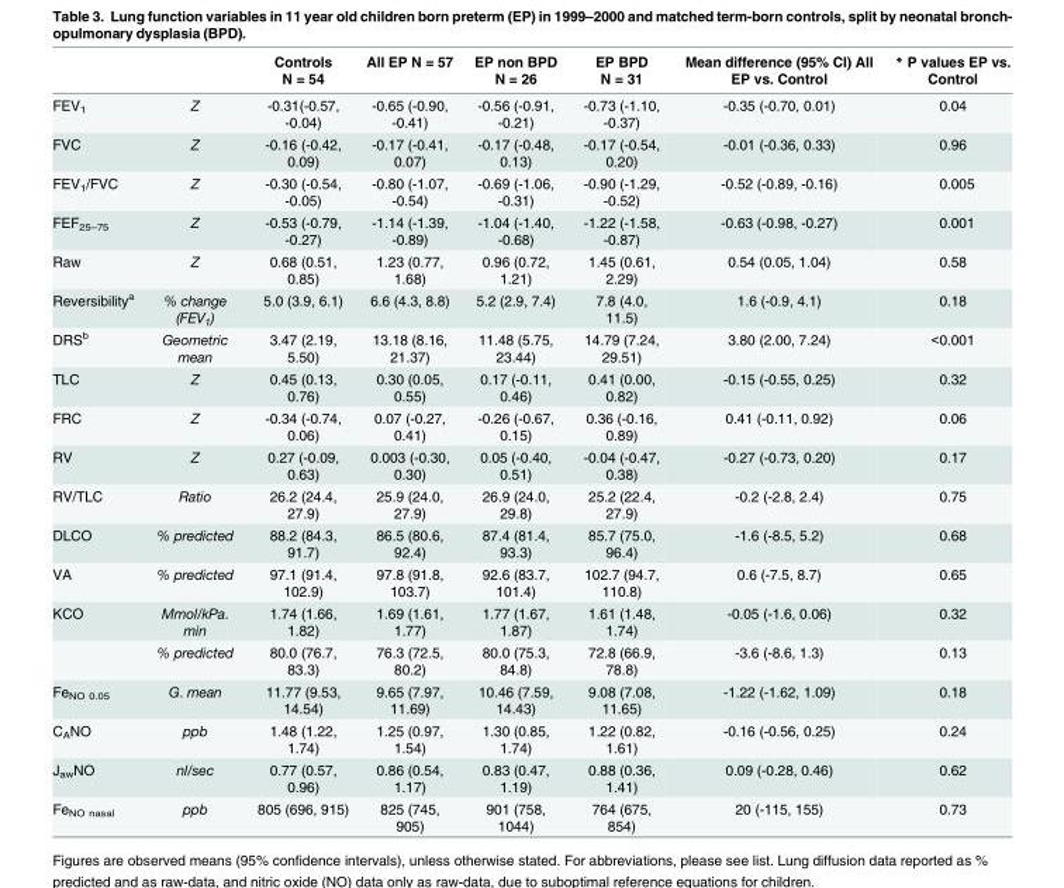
<table><thead><tr><td></td><td></td><td>Controls N = 54</td><td>All EP N = 57</td><td>EP non BPD N = 26</td><td>EP BPD N = 31</td><td>Mean difference (95% CI) All EP vs. Control</td><td>* P values EP vs. Control</td></tr></thead><tbody><tr><td>FEV<sub>1</sub></td><td>Z</td><td>-0.31(-0.57, -0.04)</td><td>-0.65 (-0.90, -0.41)</td><td>-0.56 (-0.91, -0.21)</td><td>-0.73 (-1.10, -0.37)</td><td>-0.35 (-0.70, 0.01)</td><td>0.04</td></tr><tr><td>FVC</td><td>Z</td><td>-0.16 (-0.42, 0.09)</td><td>-0.17 (-0.41, 0.07)</td><td>-0.17 (-0.48, 0.13)</td><td>-0.17 (-0.54, 0.20)</td><td>-0.01 (-0.36, 0.33)</td><td>0.96</td></tr><tr><td>FEV<sub>1</sub>/FVC</td><td>Z</td><td>-0.30 (-0.54, -0.05)</td><td>-0.80 (-1.07, -0.54)</td><td>-0.69 (-1.06, -0.31)</td><td>-0.90 (-1.29, -0.52)</td><td>-0.52 (-0.89, -0.16)</td><td>0.005</td></tr><tr><td>FEF<sub>25–75</sub></td><td>Z</td><td>-0.53 (-0.79, -0.27)</td><td>-1.14 (-1.39, -0.89)</td><td>-1.04 (-1.40, -0.68)</td><td>-1.22 (-1.58, -0.87)</td><td>-0.63 (-0.98, -0.27)</td><td>0.001</td></tr><tr><td>Raw</td><td>Z</td><td>0.68 (0.51, 0.85)</td><td>1.23 (0.77, 1.68)</td><td>0.96 (0.72, 1.21)</td><td>1.45 (0.61, 2.29)</td><td>0.54 (0.05, 1.04)</td><td>0.58</td></tr><tr><td>Reversibility<sup>a</sup></td><td>% change (FEV<sub>1</sub>)</td><td>5.0 (3.9, 6.1)</td><td>6.6 (4.3, 8.8)</td><td>5.2 (2.9, 7.4)</td><td>7.8 (4.0, 11.5)</td><td>1.6 (-0.9, 4.1)</td><td>0.18</td></tr><tr><td>DRS<sup>b</sup></td><td>Geometric mean</td><td>3.47 (2.19, 5.50)</td><td>13.18 (8.16, 21.37)</td><td>11.48 (5.75, 23.44)</td><td>14.79 (7.24, 29.51)</td><td>3.80 (2.00, 7.24)</td><td>&lt;0.001</td></tr><tr><td>TLC</td><td>Z</td><td>0.45 (0.13, 0.76)</td><td>0.30 (0.05, 0.55)</td><td>0.17 (-0.11, 0.46)</td><td>0.41 (0.00, 0.82)</td><td>-0.15 (-0.55, 0.25)</td><td>0.32</td></tr><tr><td>FRC</td><td>Z</td><td>-0.34 (-0.74, 0.06)</td><td>0.07 (-0.27, 0.41)</td><td>-0.26 (-0.67, 0.15)</td><td>0.36 (-0.16, 0.89)</td><td>0.41 (-0.11, 0.92)</td><td>0.06</td></tr><tr><td>RV</td><td>Z</td><td>0.27 (-0.09, 0.63)</td><td>0.003 (-0.30, 0.30)</td><td>0.05 (-0.40, 0.51)</td><td>-0.04 (-0.47, 0.38)</td><td>-0.27 (-0.73, 0.20)</td><td>0.17</td></tr><tr><td>RV/TLC</td><td>Ratio</td><td>26.2 (24.4, 27.9)</td><td>25.9 (24.0, 27.9)</td><td>26.9 (24.0, 29.8)</td><td>25.2 (22.4, 27.9)</td><td>-0.2 (-2.8, 2.4)</td><td>0.75</td></tr><tr><td>DLCO</td><td>% predicted</td><td>88.2 (84.3, 91.7)</td><td>86.5 (80.6, 92.4)</td><td>87.4 (81.4, 93.3)</td><td>85.7 (75.0, 96.4)</td><td>-1.6 (-8.5, 5.2)</td><td>0.68</td></tr><tr><td>VA</td><td>% predicted</td><td>97.1 (91.4, 102.9)</td><td>97.8 (91.8, 103.7)</td><td>92.6 (83.7, 101.4)</td><td>102.7 (94.7, 110.8)</td><td>0.6 (-7.5, 8.7)</td><td>0.65</td></tr><tr><td rowspan="2">KCO</td><td>Mmol/kPa. min</td><td>1.74 (1.66, 1.82)</td><td>1.69 (1.61, 1.77)</td><td>1.77 (1.67, 1.87)</td><td>1.61 (1.48, 1.74)</td><td>-0.05 (-1.6, 0.06)</td><td>0.32</td></tr><tr><td>% predicted</td><td>80.0 (76.7, 83.3)</td><td>76.3 (72.5, 80.2)</td><td>80.0 (75.3, 84.8)</td><td>72.8 (66.9, 78.8)</td><td>-3.6 (-8.6, 1.3)</td><td>0.13</td></tr><tr><td>Fe<sub>NO 0.05</sub></td><td>G. mean</td><td>11.77 (9.53, 14.54)</td><td>9.65 (7.97, 11.69)</td><td>10.46 (7.59, 14.43)</td><td>9.08 (7.08, 11.65)</td><td>-1.22 (-1.62, 1.09)</td><td>0.18</td></tr><tr><td>C<sub>A</sub>NO</td><td>ppb</td><td>1.48 (1.22, 1.74)</td><td>1.25 (0.97, 1.54)</td><td>1.30 (0.85, 1.74)</td><td>1.22 (0.82, 1.61)</td><td>-0.16 (-0.56, 0.25)</td><td>0.24</td></tr><tr><td>J<sub>aw</sub>NO</td><td>nl/sec</td><td>0.77 (0.57, 0.96)</td><td>0.86 (0.54, 1.17)</td><td>0.83 (0.47, 1.19)</td><td>0.88 (0.36, 1.41)</td><td>0.09 (-0.28, 0.46)</td><td>0.62</td></tr><tr><td>Fe<sub>NO nasal</sub></td><td>ppb</td><td>805 (696, 915)</td><td>825 (745, 905)</td><td>901 (758, 1044)</td><td>764 (675, 854)</td><td>20 (-115, 155)</td><td>0.73</td></tr></tbody></table>